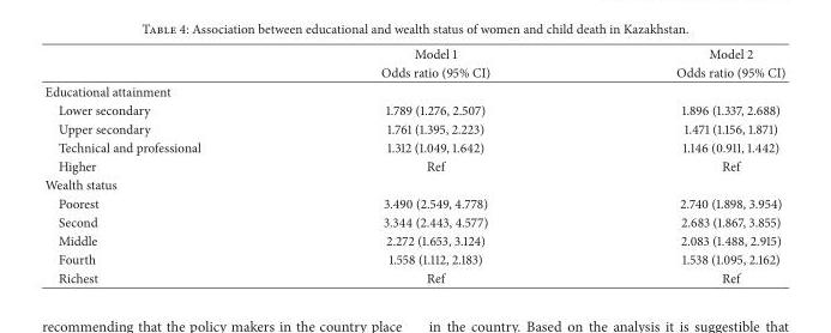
<table><thead><tr><td rowspan="2"></td><td rowspan="2">Model 1 Odds ratio (95% CI)</td><td rowspan="2">Model 2 Odds ratio (95% CI)</td></tr><tr></tr></thead><tbody><tr><td colspan="3">Educational attainment</td></tr><tr><td>Lower secondary</td><td>1.789 (1.276, 2.507)</td><td>1.896 (1.337, 2.688)</td></tr><tr><td>Upper secondary</td><td>1.761 (1.395, 2.223)</td><td>1.471 (1.156, 1.871)</td></tr><tr><td>Technical and professional</td><td>1.312 (1.049, 1.642)</td><td>1.146 (0.911, 1.442)</td></tr><tr><td>Higher</td><td>Ref</td><td>Ref</td></tr><tr><td colspan="3">Wealth status</td></tr><tr><td>Poorest</td><td>3.490 (2.549, 4.778)</td><td>2.740 (1.898, 3.954)</td></tr><tr><td>Second</td><td>3.344 (2.443, 4.577)</td><td>2.683 (1.867, 3.855)</td></tr><tr><td>Middle</td><td>2.272 (1.653, 3.124)</td><td>2.083 (1.488, 2.915)</td></tr><tr><td>Fourth</td><td>1.558 (1.112, 2.183)</td><td>1.538 (1.095, 2.162)</td></tr><tr><td>Richest</td><td>Ref</td><td>Ref</td></tr></tbody></table>